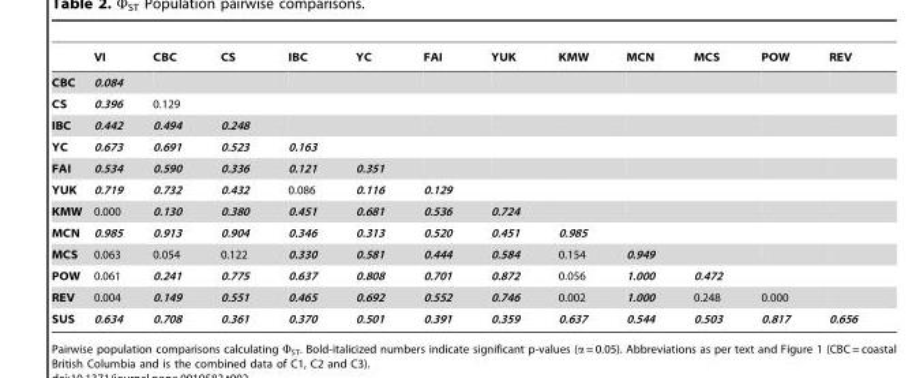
<table><thead><tr><td></td><td>VI</td><td>CBC</td><td>CS</td><td>IBC</td><td>YC</td><td>FAI</td><td>YUK</td><td>KMW</td><td>MCN</td><td>MCS</td><td>POW</td><td>REV</td></tr></thead><tbody><tr><td>CBC</td><td>0.084</td><td></td><td></td><td></td><td></td><td></td><td></td><td></td><td></td><td></td><td></td><td></td></tr><tr><td>CS</td><td>0.396</td><td>0.129</td><td></td><td></td><td></td><td></td><td></td><td></td><td></td><td></td><td></td><td></td></tr><tr><td>IBC</td><td>0.442</td><td>0.494</td><td>0.248</td><td></td><td></td><td></td><td></td><td></td><td></td><td></td><td></td><td></td></tr><tr><td>YC</td><td>0.673</td><td>0.691</td><td>0.523</td><td>0.163</td><td></td><td></td><td></td><td></td><td></td><td></td><td></td><td></td></tr><tr><td>FAI</td><td>0.534</td><td>0.590</td><td>0.336</td><td>0.121</td><td>0.351</td><td></td><td></td><td></td><td></td><td></td><td></td><td></td></tr><tr><td>YUK</td><td>0.719</td><td>0.732</td><td>0.432</td><td>0.086</td><td>0.116</td><td>0.129</td><td></td><td></td><td></td><td></td><td></td><td></td></tr><tr><td>KMW</td><td>0.000</td><td>0.130</td><td>0.380</td><td>0.451</td><td>0.681</td><td>0.536</td><td>0.724</td><td></td><td></td><td></td><td></td><td></td></tr><tr><td>MCN</td><td>0.985</td><td>0.913</td><td>0.904</td><td>0.346</td><td>0.313</td><td>0.520</td><td>0.451</td><td>0.985</td><td></td><td></td><td></td><td></td></tr><tr><td>MCS</td><td>0.063</td><td>0.054</td><td>0.122</td><td>0.330</td><td>0.581</td><td>0.444</td><td>0.584</td><td>0.154</td><td>0.949</td><td></td><td></td><td></td></tr><tr><td>POW</td><td>0.061</td><td>0.241</td><td>0.775</td><td>0.637</td><td>0.808</td><td>0.701</td><td>0.872</td><td>0.056</td><td>1.000</td><td>0.472</td><td></td><td></td></tr><tr><td>REV</td><td>0.004</td><td>0.149</td><td>0.551</td><td>0.465</td><td>0.692</td><td>0.552</td><td>0.746</td><td>0.002</td><td>1.000</td><td>0.248</td><td>0.000</td><td></td></tr><tr><td>SUS</td><td>0.634</td><td>0.708</td><td>0.361</td><td>0.370</td><td>0.501</td><td>0.391</td><td>0.359</td><td>0.637</td><td>0.544</td><td>0.503</td><td>0.817</td><td>0.656</td></tr></tbody></table>